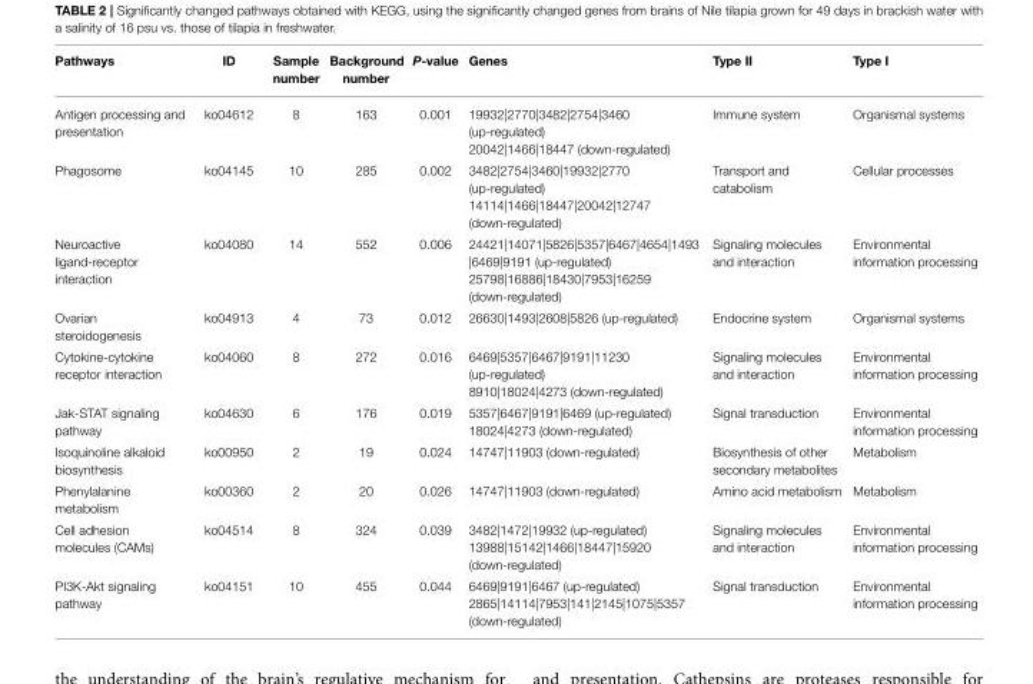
<table><thead><tr><td>Pathways</td><td>ID</td><td>Sample number</td><td>Background number</td><td>P-value</td><td>Genes</td><td>Type II</td><td>Type I</td></tr></thead><tbody><tr><td>Antigen processing and presentation</td><td>ko04612</td><td>8</td><td>163</td><td>0.001</td><td>19932|2770|3482|2754|3460 (up-regulated) 20042|1466|18447 (down-regulated)</td><td>Immune system</td><td>Organismal systems</td></tr><tr><td>Phagosome</td><td>ko04145</td><td>10</td><td>285</td><td>0.002</td><td>3482|2754|3460|19932|2770 (up-regulated) 14114|1466|18447|20042|12747 (down-regulated)</td><td>Transport and catabolism</td><td>Cellular processes</td></tr><tr><td>Neuroactive ligand-receptor interaction</td><td>ko04080</td><td>14</td><td>552</td><td>0.006</td><td>24421|14071|5826|5357|6467|4654|1493 |6469|9191 (up-regulated) 25798|16886|18430|7953|16259 (down-regulated)</td><td>Signaling molecules and interaction</td><td>Environmental information processing</td></tr><tr><td>Ovarian steroidogenesis</td><td>ko04913</td><td>4</td><td>73</td><td>0.012</td><td>26630|1493|2608|5826 (up-regulated)</td><td>Endocrine system</td><td>Organismal systems</td></tr><tr><td>Cytokine-cytokine receptor interaction</td><td>ko04060</td><td>8</td><td>272</td><td>0.016</td><td>6469|5357|6467|9191|11230 (up-regulated) 8910|18024|4273 (down-regulated)</td><td>Signaling molecules and interaction</td><td>Environmental information processing</td></tr><tr><td>Jak-STAT signaling pathway</td><td>ko04630</td><td>6</td><td>176</td><td>0.019</td><td>5357|6467|9191|6469 (up-regulated) 18024|4273 (down-regulated)</td><td>Signal transduction</td><td>Environmental information processing</td></tr><tr><td>Isoquinoline alkaloid biosynthesis</td><td>ko00950</td><td>2</td><td>19</td><td>0.024</td><td>14747|11903 (down-regulated)</td><td>Biosynthesis of other secondary metabolites</td><td>Metabolism</td></tr><tr><td>Phenylalanine metabolism</td><td>ko00360</td><td>2</td><td>20</td><td>0.026</td><td>14747|11903 (down-regulated)</td><td>Amino acid metabolism</td><td>Metabolism</td></tr><tr><td>Cell adhesion molecules (CAMs)</td><td>ko04514</td><td>8</td><td>324</td><td>0.039</td><td>3482|1472|19932 (up-regulated) 13988|15142|1466|18447|15920 (down-regulated)</td><td>Signaling molecules and interaction</td><td>Environmental information processing</td></tr><tr><td>PI3K-Akt signaling pathway</td><td>ko04151</td><td>10</td><td>455</td><td>0.044</td><td>6469|9191|6467 (up-regulated) 2865|14114|7953|141|2145|1075|5357 (down-regulated)</td><td>Signal transduction</td><td>Environmental information processing</td></tr></tbody></table>